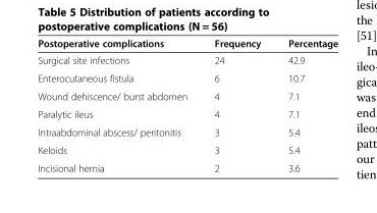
<table><thead><tr><td>Postoperative complications</td><td>Frequency</td><td>Percentage</td></tr></thead><tbody><tr><td>Surgical site infections</td><td>24</td><td>42.9</td></tr><tr><td>Enterocutaneous fistula</td><td>6</td><td>10.7</td></tr><tr><td>Wound dehiscence/ burst abdomen</td><td>4</td><td>7.1</td></tr><tr><td>Paralytic ileus</td><td>4</td><td>7.1</td></tr><tr><td>Intraabdominal abscess/ peritonitis</td><td>3</td><td>5.4</td></tr><tr><td>Keloids</td><td>3</td><td>5.4</td></tr><tr><td>Incisional hernia</td><td>2</td><td>3.6</td></tr></tbody></table>